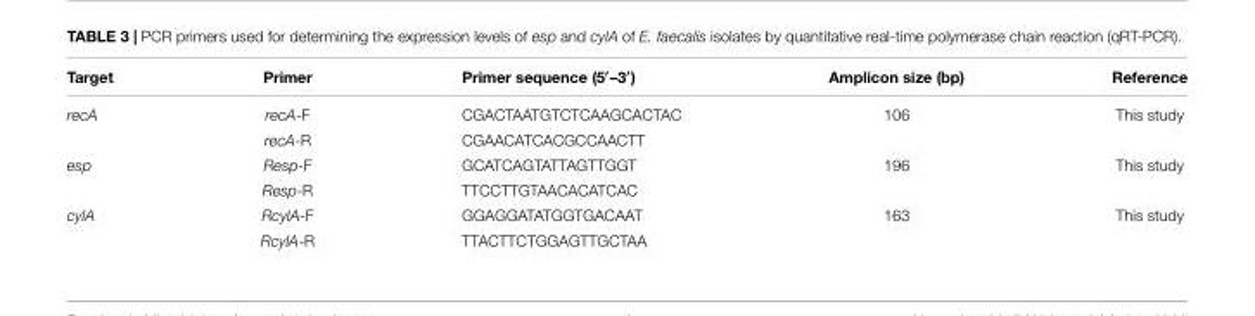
<table><thead><tr><td>Target</td><td>Primer</td><td>Primer sequence (5′–3′)</td><td>Amplicon size (bp)</td><td>Reference</td></tr></thead><tbody><tr><td rowspan="2">recA</td><td>recA-F</td><td>CGACTAATGTCTCAAGCACTAC</td><td>106</td><td>This study</td></tr><tr><td>recA-R</td><td>CGAACATCACGCCAACTT</td><td></td><td></td></tr><tr><td rowspan="2">esp</td><td>Resp-F</td><td>GCATCAGTATTAGTTGGT</td><td>196</td><td>This study</td></tr><tr><td>Resp-R</td><td>TTCCTTGTAACACATCAC</td><td></td><td></td></tr><tr><td rowspan="2">cylA</td><td>RcylA-F</td><td>GGAGGATATGGTGACAAT</td><td>163</td><td>This study</td></tr><tr><td>RcylA-R</td><td>TTACTTCTGGAGTTGCTAA</td><td></td><td></td></tr></tbody></table>